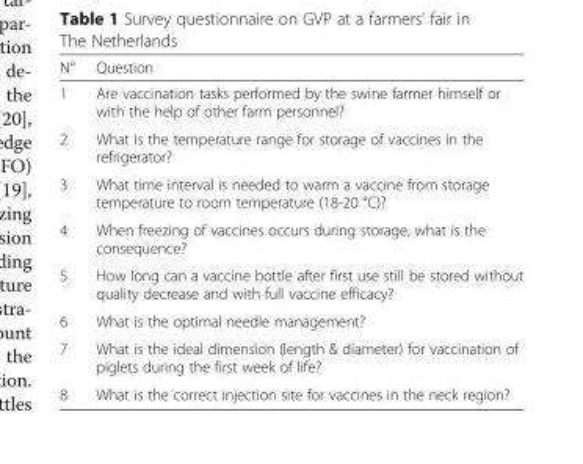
<table><thead><tr><td>N°</td><td>Question</td></tr></thead><tbody><tr><td>1</td><td>Are vaccination tasks performed by the swine farmer himself or with the help of other farm personnel?</td></tr><tr><td>2</td><td>What is the temperature range for storage of vaccines in the refrigerator?</td></tr><tr><td>3</td><td>What time interval is needed to warm a vaccine from storage temperature to room temperature (18-20 °C)?</td></tr><tr><td>4</td><td>When freezing of vaccines occurs during storage, what is the consequence?</td></tr><tr><td>5</td><td>How long can a vaccine bottle after first use still be stored without quality decrease and with full vaccine efficacy?</td></tr><tr><td>6</td><td>What is the optimal needle management?</td></tr><tr><td>7</td><td>What is the ideal dimension (length &amp; diameter) for vaccination of piglets during the first week of life?</td></tr><tr><td>8</td><td>What is the correct injection site for vaccines in the neck region?</td></tr></tbody></table>